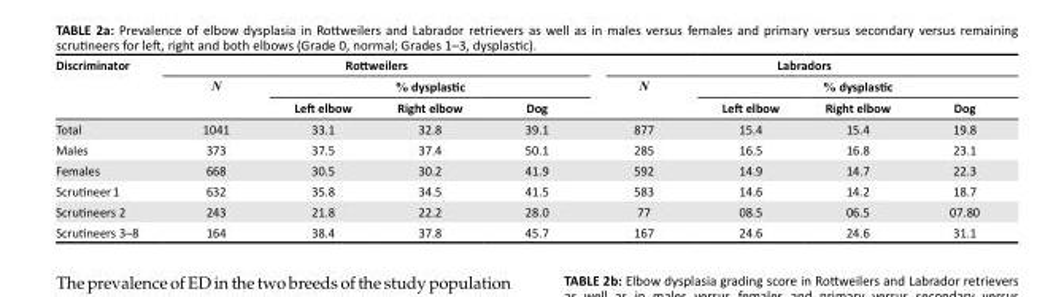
<table><thead><tr><td rowspan="3">Discriminator</td><td colspan="4">Rottweilers</td><td colspan="4">Labradors</td></tr><tr><td rowspan="2">N</td><td colspan="3">% dysplastic</td><td rowspan="2">N</td><td colspan="3">% dysplastic</td></tr><tr><td>Left elbow</td><td>Right elbow</td><td>Dog</td><td>Left elbow</td><td>Right elbow</td><td>Dog</td></tr></thead><tbody><tr><td>Total</td><td>1041</td><td>33.1</td><td>32.8</td><td>39.1</td><td>877</td><td>15.4</td><td>15.4</td><td>19.8</td></tr><tr><td>Males</td><td>373</td><td>37.5</td><td>37.4</td><td>50.1</td><td>285</td><td>16.5</td><td>16.8</td><td>23.1</td></tr><tr><td>Females</td><td>668</td><td>30.5</td><td>30.2</td><td>41.9</td><td>592</td><td>14.9</td><td>14.7</td><td>22.3</td></tr><tr><td>Scrutineer 1</td><td>632</td><td>35.8</td><td>34.5</td><td>41.5</td><td>583</td><td>14.6</td><td>14.2</td><td>18.7</td></tr><tr><td>Scrutineers 2</td><td>243</td><td>21.8</td><td>22.2</td><td>28.0</td><td>77</td><td>08.5</td><td>06.5</td><td>07.80</td></tr><tr><td>Scrutineers 3–8</td><td>164</td><td>38.4</td><td>37.8</td><td>45.7</td><td>167</td><td>24.6</td><td>24.6</td><td>31.1</td></tr></tbody></table>